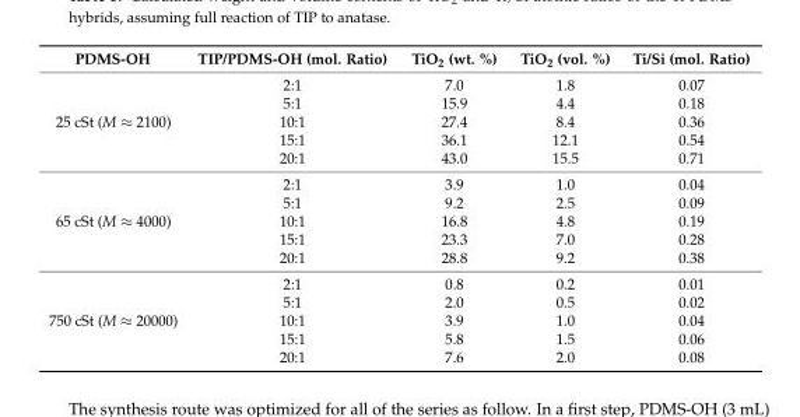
<table><thead><tr><td>PDMS-OH</td><td>TIP/PDMS-OH (mol. Ratio)</td><td>TiO<sub>2</sub> (wt. %)</td><td>TiO<sub>2</sub> (vol. %)</td><td>Ti/Si (mol. Ratio)</td></tr></thead><tbody><tr><td rowspan="5">25 cSt (M ≈ 2100)</td><td>2:1</td><td>7.0</td><td>1.8</td><td>0.07</td></tr><tr><td>5:1</td><td>15.9</td><td>4.4</td><td>0.18</td></tr><tr><td>10:1</td><td>27.4</td><td>8.4</td><td>0.36</td></tr><tr><td>15:1</td><td>36.1</td><td>12.1</td><td>0.54</td></tr><tr><td>20:1</td><td>43.0</td><td>15.5</td><td>0.71</td></tr><tr><td rowspan="5">65 cSt (M ≈ 4000)</td><td>2:1</td><td>3.9</td><td>1.0</td><td>0.04</td></tr><tr><td>5:1</td><td>9.2</td><td>2.5</td><td>0.09</td></tr><tr><td>10:1</td><td>16.8</td><td>4.8</td><td>0.19</td></tr><tr><td>15:1</td><td>23.3</td><td>7.0</td><td>0.28</td></tr><tr><td>20:1</td><td>28.8</td><td>9.2</td><td>0.38</td></tr><tr><td rowspan="5">750 cSt (M ≈ 20000)</td><td>2:1</td><td>0.8</td><td>0.2</td><td>0.01</td></tr><tr><td>5:1</td><td>2.0</td><td>0.5</td><td>0.02</td></tr><tr><td>10:1</td><td>3.9</td><td>1.0</td><td>0.04</td></tr><tr><td>15:1</td><td>5.8</td><td>1.5</td><td>0.06</td></tr><tr><td>20:1</td><td>7.6</td><td>2.0</td><td>0.08</td></tr></tbody></table>